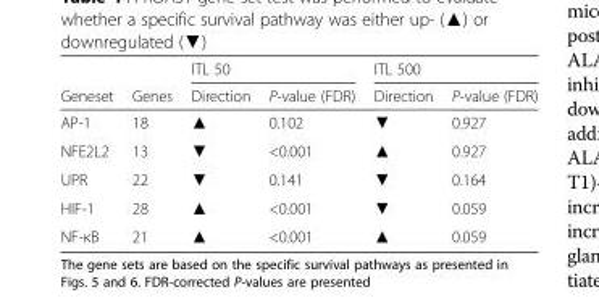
<table><thead><tr><td rowspan="2">Geneset</td><td rowspan="2">Genes</td><td colspan="2">ITL 50</td><td colspan="2">ITL 500</td></tr><tr><td>Direction</td><td>P-value (FDR)</td><td>Direction</td><td>P-value (FDR)</td></tr></thead><tbody><tr><td>AP-1</td><td>18</td><td>▲</td><td>0.102</td><td>▼</td><td>0.927</td></tr><tr><td>NFE2L2</td><td>13</td><td>▼</td><td>&lt;0.001</td><td>▲</td><td>0.927</td></tr><tr><td>UPR</td><td>22</td><td>▼</td><td>0.141</td><td>▼</td><td>0.164</td></tr><tr><td>HIF-1</td><td>28</td><td>▲</td><td>&lt;0.001</td><td>▼</td><td>0.059</td></tr><tr><td>NF-κB</td><td>21</td><td>▲</td><td>&lt;0.001</td><td>▲</td><td>0.059</td></tr></tbody></table>